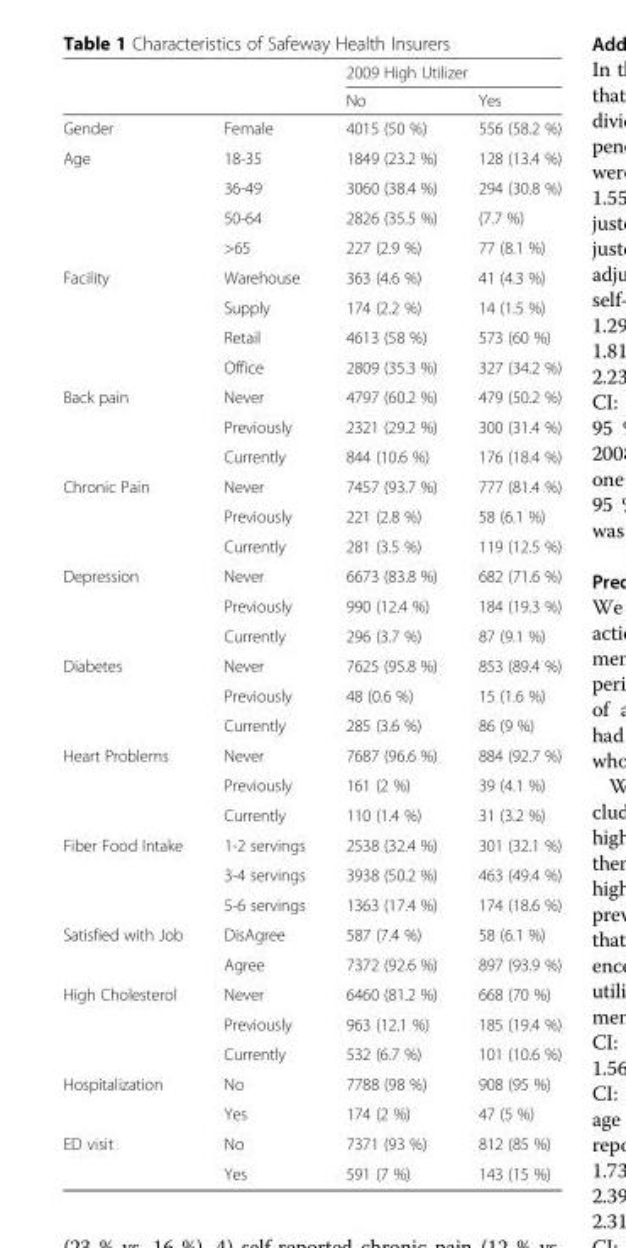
<table><thead><tr><td rowspan="2"></td><td rowspan="2"></td><td colspan="2">2009 High Utilizer</td></tr><tr><td>No</td><td>Yes</td></tr></thead><tbody><tr><td>Gender</td><td>Female</td><td>4015 (50 %)</td><td>556 (58.2 %)</td></tr><tr><td rowspan="4">Age</td><td>18-35</td><td>1849 (23.2 %)</td><td>128 (13.4 %)</td></tr><tr><td>36-49</td><td>3060 (38.4 %)</td><td>294 (30.8 %)</td></tr><tr><td>50-64</td><td>2826 (35.5 %)</td><td>(7.7 %)</td></tr><tr><td>&gt;65</td><td>227 (2.9 %)</td><td>77 (8.1 %)</td></tr><tr><td rowspan="4">Facility</td><td>Warehouse</td><td>363 (4.6 %)</td><td>41 (4.3 %)</td></tr><tr><td>Supply</td><td>174 (2.2 %)</td><td>14 (1.5 %)</td></tr><tr><td>Retail</td><td>4613 (58 %)</td><td>573 (60 %)</td></tr><tr><td>Office</td><td>2809 (35.3 %)</td><td>327 (34.2 %)</td></tr><tr><td rowspan="3">Back pain</td><td>Never</td><td>4797 (60.2 %)</td><td>479 (50.2 %)</td></tr><tr><td>Previously</td><td>2321 (29.2 %)</td><td>300 (31.4 %)</td></tr><tr><td>Currently</td><td>844 (10.6 %)</td><td>176 (18.4 %)</td></tr><tr><td rowspan="3">Chronic Pain</td><td>Never</td><td>7457 (93.7 %)</td><td>777 (81.4 %)</td></tr><tr><td>Previously</td><td>221 (2.8 %)</td><td>58 (6.1 %)</td></tr><tr><td>Currently</td><td>281 (3.5 %)</td><td>119 (12.5 %)</td></tr><tr><td rowspan="3">Depression</td><td>Never</td><td>6673 (83.8 %)</td><td>682 (71.6 %)</td></tr><tr><td>Previously</td><td>990 (12.4 %)</td><td>184 (19.3 %)</td></tr><tr><td>Currently</td><td>296 (3.7 %)</td><td>87 (9.1 %)</td></tr><tr><td rowspan="3">Diabetes</td><td>Never</td><td>7625 (95.8 %)</td><td>853 (89.4 %)</td></tr><tr><td>Previously</td><td>48 (0.6 %)</td><td>15 (1.6 %)</td></tr><tr><td>Currently</td><td>285 (3.6 %)</td><td>86 (9 %)</td></tr><tr><td rowspan="3">Heart Problems</td><td>Never</td><td>7687 (96.6 %)</td><td>884 (92.7 %)</td></tr><tr><td>Previously</td><td>161 (2 %)</td><td>39 (4.1 %)</td></tr><tr><td>Currently</td><td>110 (1.4 %)</td><td>31 (3.2 %)</td></tr><tr><td rowspan="3">Fiber Food Intake</td><td>1-2 servings</td><td>2538 (32.4 %)</td><td>301 (32.1 %)</td></tr><tr><td>3-4 servings</td><td>3938 (50.2 %)</td><td>463 (49.4 %)</td></tr><tr><td>5-6 servings</td><td>1363 (17.4 %)</td><td>174 (18.6 %)</td></tr><tr><td rowspan="2">Satisfied with Job</td><td>DisAgree</td><td>587 (7.4 %)</td><td>58 (6.1 %)</td></tr><tr><td>Agree</td><td>7372 (92.6 %)</td><td>897 (93.9 %)</td></tr><tr><td rowspan="3">High Cholesterol</td><td>Never</td><td>6460 (81.2 %)</td><td>668 (70 %)</td></tr><tr><td>Previously</td><td>963 (12.1 %)</td><td>185 (19.4 %)</td></tr><tr><td>Currently</td><td>532 (6.7 %)</td><td>101 (10.6 %)</td></tr><tr><td rowspan="2">Hospitalization</td><td>No</td><td>7788 (98 %)</td><td>908 (95 %)</td></tr><tr><td>Yes</td><td>174 (2 %)</td><td>47 (5 %)</td></tr><tr><td rowspan="2">ED visit</td><td>No</td><td>7371 (93 %)</td><td>812 (85 %)</td></tr><tr><td>Yes</td><td>591 (7 %)</td><td>143 (15 %)</td></tr></tbody></table>